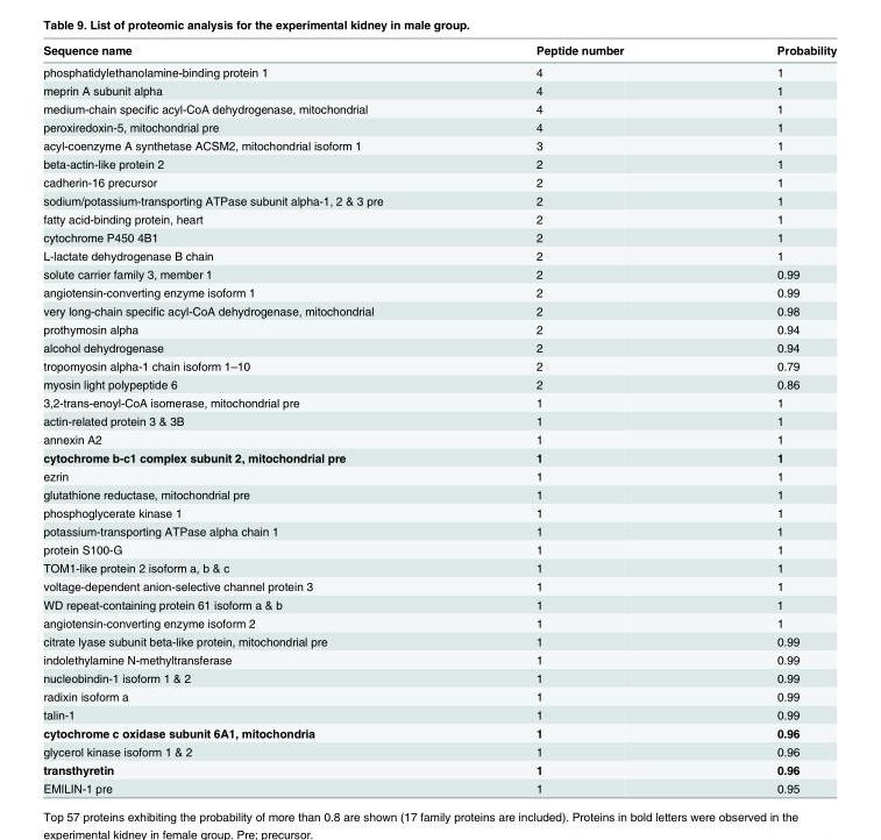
<table><thead><tr><td>Sequence name</td><td>Peptide number</td><td>Probability</td></tr></thead><tbody><tr><td>phosphatidylethanolamine-binding protein 1</td><td>4</td><td>1</td></tr><tr><td>meprin A subunit alpha</td><td>4</td><td>1</td></tr><tr><td>medium-chain specific acyl-CoA dehydrogenase, mitochondrial</td><td>4</td><td>1</td></tr><tr><td>peroxiredoxin-5, mitochondrial pre</td><td>4</td><td>1</td></tr><tr><td>acyl-coenzyme A synthetase ACSM2, mitochondrial isoform 1</td><td>3</td><td>1</td></tr><tr><td>beta-actin-like protein 2</td><td>2</td><td>1</td></tr><tr><td>cadherin-16 precursor</td><td>2</td><td>1</td></tr><tr><td>sodium/potassium-transporting ATPase subunit alpha-1, 2 &amp; 3 pre</td><td>2</td><td>1</td></tr><tr><td>fatty acid-binding protein, heart</td><td>2</td><td>1</td></tr><tr><td>cytochrome P450 4B1</td><td>2</td><td>1</td></tr><tr><td>L-lactate dehydrogenase B chain</td><td>2</td><td>1</td></tr><tr><td>solute carrier family 3, member 1</td><td>2</td><td>0.99</td></tr><tr><td>angiotensin-converting enzyme isoform 1</td><td>2</td><td>0.99</td></tr><tr><td>very long-chain specific acyl-CoA dehydrogenase, mitochondrial</td><td>2</td><td>0.98</td></tr><tr><td>prothymosin alpha</td><td>2</td><td>0.94</td></tr><tr><td>alcohol dehydrogenase</td><td>2</td><td>0.94</td></tr><tr><td>tropomyosin alpha-1 chain isoform 1–10</td><td>2</td><td>0.79</td></tr><tr><td>myosin light polypeptide 6</td><td>2</td><td>0.86</td></tr><tr><td>3,2-trans-enoyl-CoA isomerase, mitochondrial pre</td><td>1</td><td>1</td></tr><tr><td>actin-related protein 3 &amp; 3B</td><td>1</td><td>1</td></tr><tr><td>annexin A2</td><td>1</td><td>1</td></tr><tr><td>cytochrome b-c1 complex subunit 2, mitochondrial pre</td><td>1</td><td>1</td></tr><tr><td>ezrin</td><td>1</td><td>1</td></tr><tr><td>glutathione reductase, mitochondrial pre</td><td>1</td><td>1</td></tr><tr><td>phosphoglycerate kinase 1</td><td>1</td><td>1</td></tr><tr><td>potassium-transporting ATPase alpha chain 1</td><td>1</td><td>1</td></tr><tr><td>protein S100-G</td><td>1</td><td>1</td></tr><tr><td>TOM1-like protein 2 isoform a, b &amp; c</td><td>1</td><td>1</td></tr><tr><td>voltage-dependent anion-selective channel protein 3</td><td>1</td><td>1</td></tr><tr><td>WD repeat-containing protein 61 isoform a &amp; b</td><td>1</td><td>1</td></tr><tr><td>angiotensin-converting enzyme isoform 2</td><td>1</td><td>1</td></tr><tr><td>citrate lyase subunit beta-like protein, mitochondrial pre</td><td>1</td><td>0.99</td></tr><tr><td>indolethylamine N-methyltransferase</td><td>1</td><td>0.99</td></tr><tr><td>nucleobindin-1 isoform 1 &amp; 2</td><td>1</td><td>0.99</td></tr><tr><td>radixin isoform a</td><td>1</td><td>0.99</td></tr><tr><td>talin-1</td><td>1</td><td>0.99</td></tr><tr><td>cytochrome c oxidase subunit 6A1, mitochondria</td><td>1</td><td>0.96</td></tr><tr><td>glycerol kinase isoform 1 &amp; 2</td><td>1</td><td>0.96</td></tr><tr><td>transthyretin</td><td>1</td><td>0.96</td></tr><tr><td>EMILIN-1 pre</td><td>1</td><td>0.95</td></tr></tbody></table>